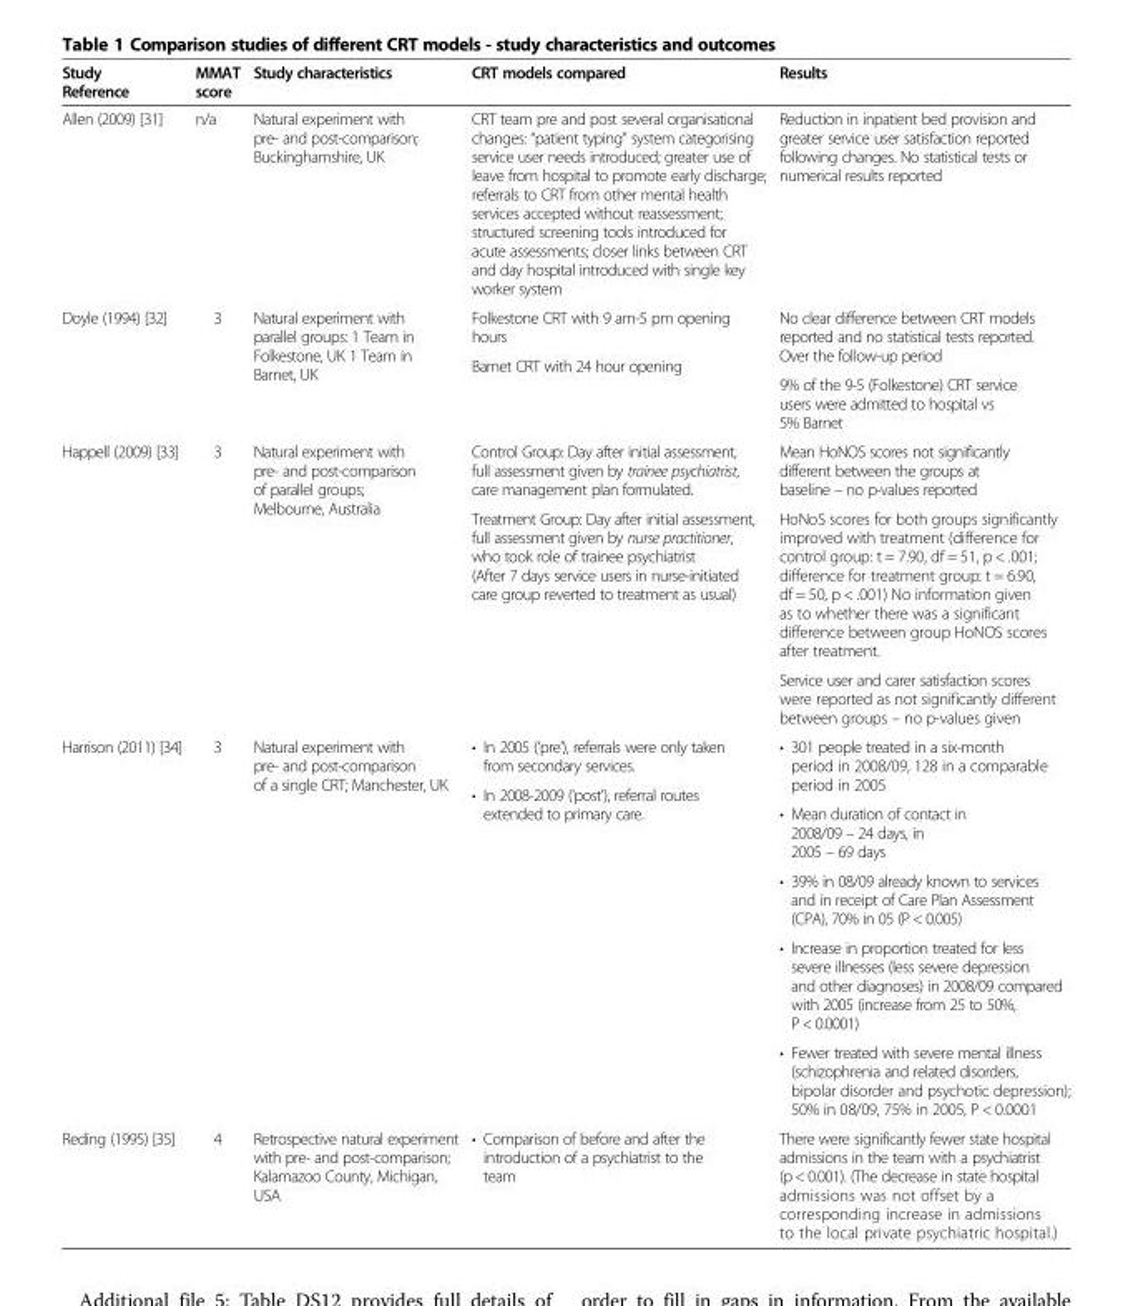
<table><thead><tr><td>Study Reference</td><td>MMAT score</td><td>Study characteristics</td><td>CRT models compared</td><td>Results</td></tr></thead><tbody><tr><td>Allen (2009) [31]</td><td>n/a</td><td>Natural experiment with pre- and post-comparison; Buckinghamshire, UK</td><td>CRT team pre and post several organisational changes: “patient typing” system categorising service user needs introduced; greater use of leave from hospital to promote early discharge; referrals to CRT from other mental health services accepted without reassessment; structured screening tools introduced for acute assessments; closer links between CRT and day hospital introduced with single key worker system</td><td>Reduction in inpatient bed provision and greater service user satisfaction reported following changes. No statistical tests or numerical results reported</td></tr><tr><td rowspan="3">Doyle (1994) [32]</td><td rowspan="3">3</td><td rowspan="3">Natural experiment with parallel groups: 1 Team in Folkestone, UK 1 Team in Barnet, UK</td><td>Folkestone CRT with 9 am-5 pm opening hours</td><td rowspan="2">No clear difference between CRT models reported and no statistical tests reported. Over the follow-up period</td></tr><tr><td rowspan="2">Barnet CRT with 24 hour opening</td></tr><tr><td>9% of the 9-5 (Folkestone) CRT service users were admitted to hospital vs 5% Barnet</td></tr><tr><td rowspan="3">Happell (2009) [33]</td><td rowspan="3">3</td><td rowspan="3">Natural experiment with pre- and post-comparison of parallel groups; Melbourne, Australia</td><td>Control Group: Day after initial assessment, full assessment given by trainee psychiatrist, care management plan formulated.</td><td>Mean HoNOS scores not significantly different between the groups at baseline – no p-values reported</td></tr><tr><td rowspan="2">Treatment Group: Day after initial assessment, full assessment given by nurse practitioner, who took role of trainee psychiatrist (After 7 days service users in nurse-initiated care group reverted to treatment as usual)</td><td>HoNoS scores for both groups significantly improved with treatment (difference for control group: t = 7.90, df = 51, p &lt; .001; difference for treatment group: t = 6.90, df = 50, p &lt; .001) No information given as to whether there was a significant difference between group HoNOS scores after treatment.</td></tr><tr><td>Service user and carer satisfaction scores were reported as not significantly different between groups – no p-values given</td></tr><tr><td rowspan="6">Harrison (2011) [34]</td><td rowspan="6">3</td><td rowspan="6">Natural experiment with pre- and post-comparison of a single CRT; Manchester, UK</td><td>• In 2005 (‘pre’), referrals were only taken from secondary services.</td><td rowspan="2">• 301 people treated in a six-month period in 2008/09, 128 in a comparable period in 2005</td></tr><tr><td rowspan="5">• In 2008-2009 (‘post’), referral routes extended to primary care.</td></tr><tr><td>• Mean duration of contact in 2008/09 – 24 days, in 2005 – 69 days</td></tr><tr><td>• 39% in 08/09 already known to services and in receipt of Care Plan Assessment (CPA), 70% in 05 (P &lt; 0.005)</td></tr><tr><td>• Increase in proportion treated for less severe illnesses (less severe depression and other diagnoses) in 2008/09 compared with 2005 (increase from 25 to 50%, P &lt; 0.0001)</td></tr><tr><td>• Fewer treated with severe mental illness (schizophrenia and related disorders, bipolar disorder and psychotic depression); 50% in 08/09, 75% in 2005, P &lt; 0.0001</td></tr><tr><td>Reding (1995) [35]</td><td>4</td><td>Retrospective natural experiment with pre- and post-comparison; Kalamazoo County, Michigan, USA</td><td>• Comparison of before and after the introduction of a psychiatrist to the team</td><td>There were significantly fewer state hospital admissions in the team with a psychiatrist (p &lt; 0.001). (The decrease in state hospital admissions was not offset by a corresponding increase in admissions to the local private psychiatric hospital.)</td></tr></tbody></table>